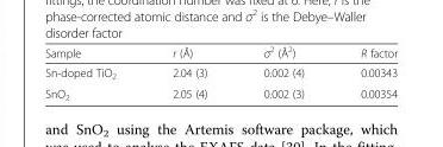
<table><thead><tr><td>Sample</td><td>r (Å)</td><td>σ<sup>2</sup> (Å<sup>2</sup>)</td><td>R factor</td></tr></thead><tbody><tr><td>Sn-doped TiO<sub>2</sub></td><td>2.04 (3)</td><td>0.002 (4)</td><td>0.00343</td></tr><tr><td>SnO<sub>2</sub></td><td>2.05 (4)</td><td>0.002 (3)</td><td>0.00354</td></tr></tbody></table>